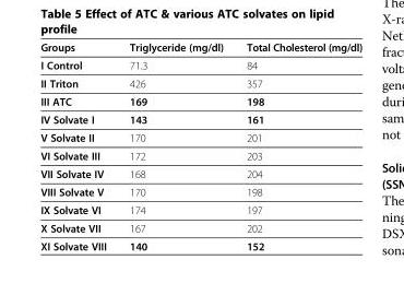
<table><thead><tr><td>Groups</td><td>Triglyceride (mg/dl)</td><td>Total Cholesterol (mg/dl)</td></tr></thead><tbody><tr><td>I Control</td><td>71.3</td><td>84</td></tr><tr><td>II Triton</td><td>426</td><td>357</td></tr><tr><td>III ATC</td><td>169</td><td>198</td></tr><tr><td>IV Solvate I</td><td>143</td><td>161</td></tr><tr><td>V Solvate II</td><td>170</td><td>201</td></tr><tr><td>VI Solvate III</td><td>172</td><td>203</td></tr><tr><td>VII Solvate IV</td><td>168</td><td>204</td></tr><tr><td>VIII Solvate V</td><td>170</td><td>198</td></tr><tr><td>IX Solvate VI</td><td>174</td><td>197</td></tr><tr><td>X Solvate VII</td><td>167</td><td>202</td></tr><tr><td>XI Solvate VIII</td><td>140</td><td>152</td></tr></tbody></table>